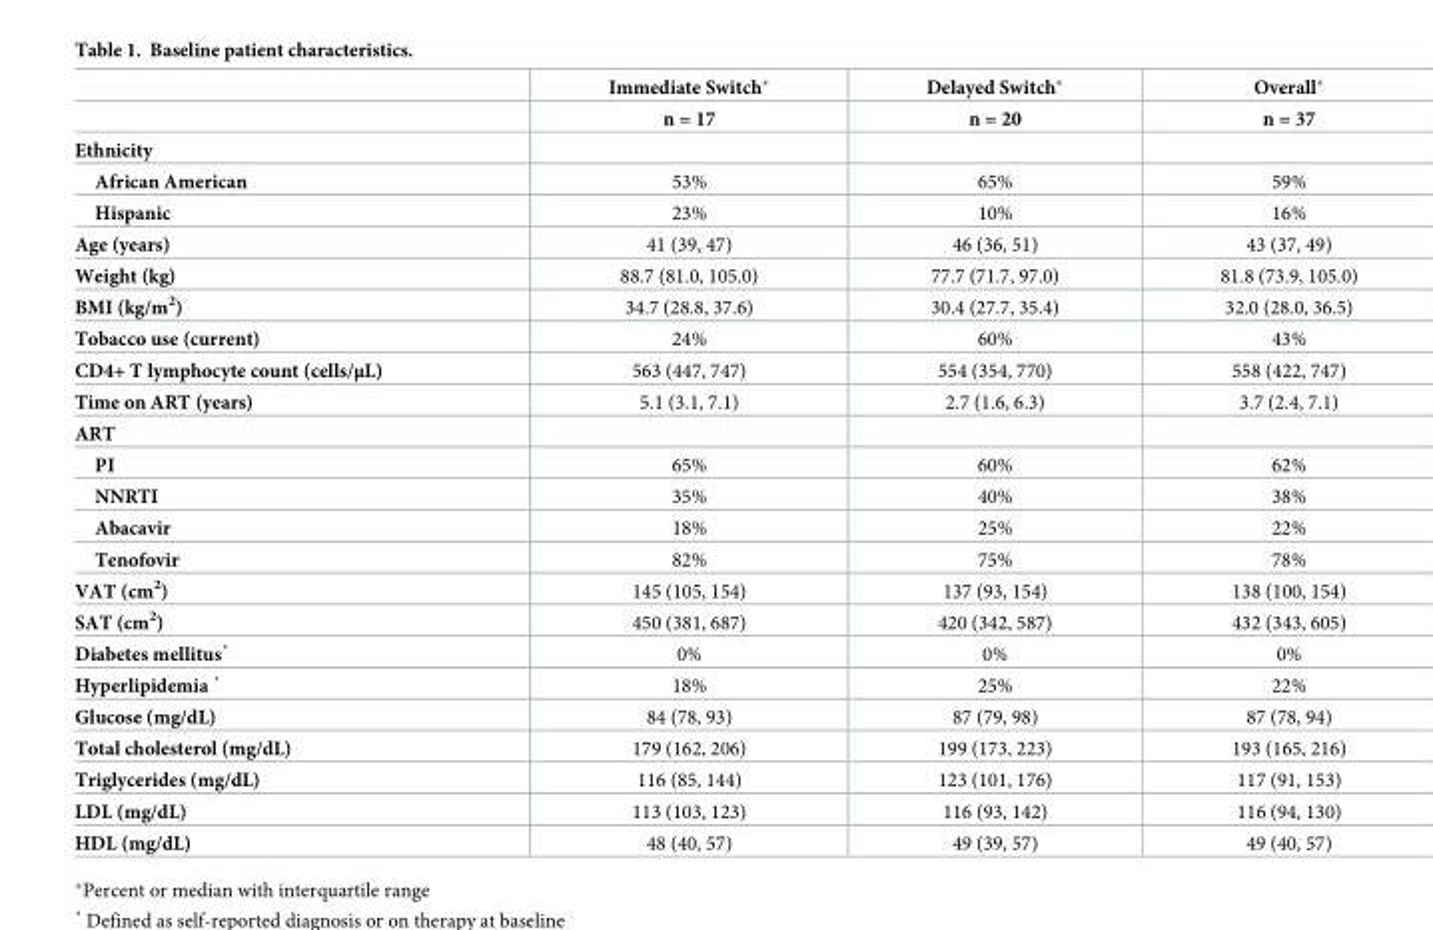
<table><thead><tr><td rowspan="2"></td><td rowspan="2">Immediate Switch* n = 17</td><td rowspan="2">Delayed Switch* n = 20</td><td rowspan="2">Overall* n = 37</td></tr><tr></tr></thead><tbody><tr><td colspan="4">Ethnicity</td></tr><tr><td>African American</td><td>53%</td><td>65%</td><td>59%</td></tr><tr><td>Hispanic</td><td>23%</td><td>10%</td><td>16%</td></tr><tr><td>Age (years)</td><td>41 (39, 47)</td><td>46 (36, 51)</td><td>43 (37, 49)</td></tr><tr><td>Weight (kg)</td><td>88.7 (81.0, 105.0)</td><td>77.7 (71.7, 97.0)</td><td>81.8 (73.9, 105.0)</td></tr><tr><td>BMI (kg/m<sup>2</sup>)</td><td>34.7 (28.8, 37.6)</td><td>30.4 (27.7, 35.4)</td><td>32.0 (28.0, 36.5)</td></tr><tr><td>Tobacco use (current)</td><td>24%</td><td>60%</td><td>43%</td></tr><tr><td>CD4+ T lymphocyte count (cells/μL)</td><td>563 (447, 747)</td><td>554 (354, 770)</td><td>558 (422, 747)</td></tr><tr><td>Time on ART (years)</td><td>5.1 (3.1, 7.1)</td><td>2.7 (1.6, 6.3)</td><td>3.7 (2.4, 7.1)</td></tr><tr><td colspan="4">ART</td></tr><tr><td>PI</td><td>65%</td><td>60%</td><td>62%</td></tr><tr><td>NNRTI</td><td>35%</td><td>40%</td><td>38%</td></tr><tr><td>Abacavir</td><td>18%</td><td>25%</td><td>22%</td></tr><tr><td>Tenofovir</td><td>82%</td><td>75%</td><td>78%</td></tr><tr><td>VAT (cm<sup>2</sup>)</td><td>145 (105, 154)</td><td>137 (93, 154)</td><td>138 (100, 154)</td></tr><tr><td>SAT (cm<sup>2</sup>)</td><td>450 (381, 687)</td><td>420 (342, 587)</td><td>432 (343, 605)</td></tr><tr><td>Diabetes mellitus֓</td><td>0%</td><td>0%</td><td>0%</td></tr><tr><td>Hyperlipidemia ֓</td><td>18%</td><td>25%</td><td>22%</td></tr><tr><td>Glucose (mg/dL)</td><td>84 (78, 93)</td><td>87 (79, 98)</td><td>87 (78, 94)</td></tr><tr><td>Total cholesterol (mg/dL)</td><td>179 (162, 206)</td><td>199 (173, 223)</td><td>193 (165, 216)</td></tr><tr><td>Triglycerides (mg/dL)</td><td>116 (85, 144)</td><td>123 (101, 176)</td><td>117 (91, 153)</td></tr><tr><td>LDL (mg/dL)</td><td>113 (103, 123)</td><td>116 (93, 142)</td><td>116 (94, 130)</td></tr><tr><td>HDL (mg/dL)</td><td>48 (40, 57)</td><td>49 (39, 57)</td><td>49 (40, 57)</td></tr></tbody></table>